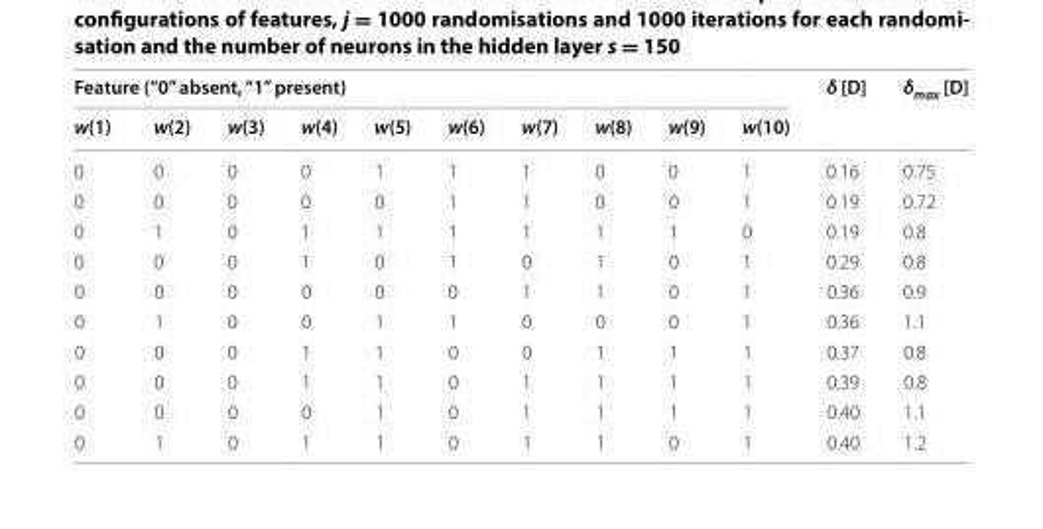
<table><thead><tr><td colspan="10">Feature (“0” absent, “1” present)</td><td rowspan="2">δ [D]</td><td rowspan="2">δ<sub>max</sub> [D]</td></tr><tr><td>w(1)</td><td>w(2)</td><td>w(3)</td><td>w(4)</td><td>w(5)</td><td>w(6)</td><td>w(7)</td><td>w(8)</td><td>w(9)</td><td>w(10)</td></tr></thead><tbody><tr><td>0</td><td>0</td><td>0</td><td>0</td><td>1</td><td>1</td><td>1</td><td>0</td><td>0</td><td>1</td><td>0.16</td><td>0.75</td></tr><tr><td>0</td><td>0</td><td>0</td><td>0</td><td>0</td><td>1</td><td>1</td><td>0</td><td>0</td><td>1</td><td>0.19</td><td>0.72</td></tr><tr><td>0</td><td>1</td><td>0</td><td>1</td><td>1</td><td>1</td><td>1</td><td>1</td><td>1</td><td>0</td><td>0.19</td><td>0.8</td></tr><tr><td>0</td><td>0</td><td>0</td><td>1</td><td>0</td><td>1</td><td>0</td><td>1</td><td>0</td><td>1</td><td>0.29</td><td>0.8</td></tr><tr><td>0</td><td>0</td><td>0</td><td>0</td><td>0</td><td>0</td><td>1</td><td>1</td><td>0</td><td>1</td><td>0.36</td><td>0.9</td></tr><tr><td>0</td><td>1</td><td>0</td><td>0</td><td>1</td><td>1</td><td>0</td><td>0</td><td>0</td><td>1</td><td>0.36</td><td>1.1</td></tr><tr><td>0</td><td>0</td><td>0</td><td>1</td><td>1</td><td>0</td><td>0</td><td>1</td><td>1</td><td>1</td><td>0.37</td><td>0.8</td></tr><tr><td>0</td><td>0</td><td>0</td><td>1</td><td>1</td><td>0</td><td>1</td><td>1</td><td>1</td><td>1</td><td>0.39</td><td>0.8</td></tr><tr><td>0</td><td>0</td><td>0</td><td>0</td><td>1</td><td>0</td><td>1</td><td>1</td><td>1</td><td>1</td><td>0.40</td><td>1.1</td></tr><tr><td>0</td><td>1</td><td>0</td><td>1</td><td>1</td><td>0</td><td>1</td><td>1</td><td>0</td><td>1</td><td>0.40</td><td>1.2</td></tr></tbody></table>